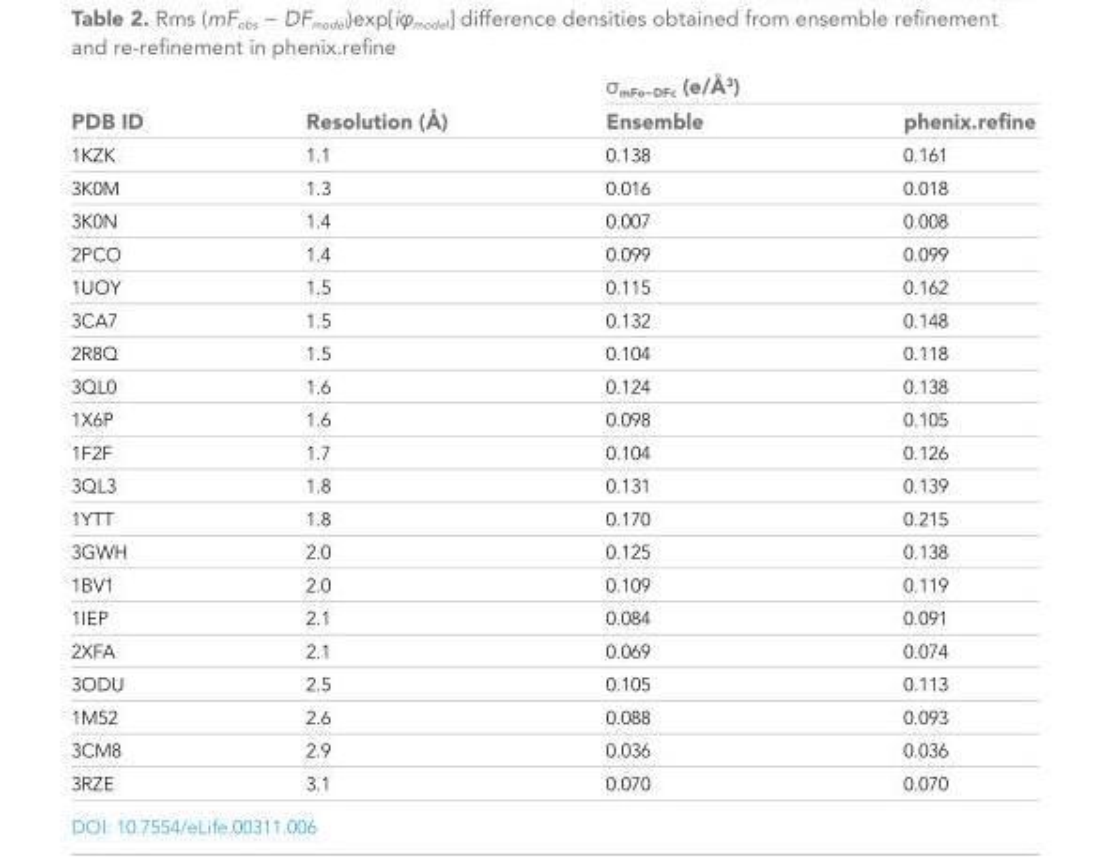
<table><thead><tr><td rowspan="2">PDB ID</td><td rowspan="2">Resolution (Å)</td><td colspan="2">σ<sub>mFo−DFc</sub> (e/Å<sup>3</sup>)</td></tr><tr><td>Ensemble</td><td>phenix.refine</td></tr></thead><tbody><tr><td>1KZK</td><td>1.1</td><td>0.138</td><td>0.161</td></tr><tr><td>3K0M</td><td>1.3</td><td>0.016</td><td>0.018</td></tr><tr><td>3K0N</td><td>1.4</td><td>0.007</td><td>0.008</td></tr><tr><td>2PCO</td><td>1.4</td><td>0.099</td><td>0.099</td></tr><tr><td>1UOY</td><td>1.5</td><td>0.115</td><td>0.162</td></tr><tr><td>3CA7</td><td>1.5</td><td>0.132</td><td>0.148</td></tr><tr><td>2R8Q</td><td>1.5</td><td>0.104</td><td>0.118</td></tr><tr><td>3QL0</td><td>1.6</td><td>0.124</td><td>0.138</td></tr><tr><td>1X6P</td><td>1.6</td><td>0.098</td><td>0.105</td></tr><tr><td>1F2F</td><td>1.7</td><td>0.104</td><td>0.126</td></tr><tr><td>3QL3</td><td>1.8</td><td>0.131</td><td>0.139</td></tr><tr><td>1YTT</td><td>1.8</td><td>0.170</td><td>0.215</td></tr><tr><td>3GWH</td><td>2.0</td><td>0.125</td><td>0.138</td></tr><tr><td>1BV1</td><td>2.0</td><td>0.109</td><td>0.119</td></tr><tr><td>1IEP</td><td>2.1</td><td>0.084</td><td>0.091</td></tr><tr><td>2XFA</td><td>2.1</td><td>0.069</td><td>0.074</td></tr><tr><td>3ODU</td><td>2.5</td><td>0.105</td><td>0.113</td></tr><tr><td>1M52</td><td>2.6</td><td>0.088</td><td>0.093</td></tr><tr><td>3CM8</td><td>2.9</td><td>0.036</td><td>0.036</td></tr><tr><td>3RZE</td><td>3.1</td><td>0.070</td><td>0.070</td></tr></tbody></table>